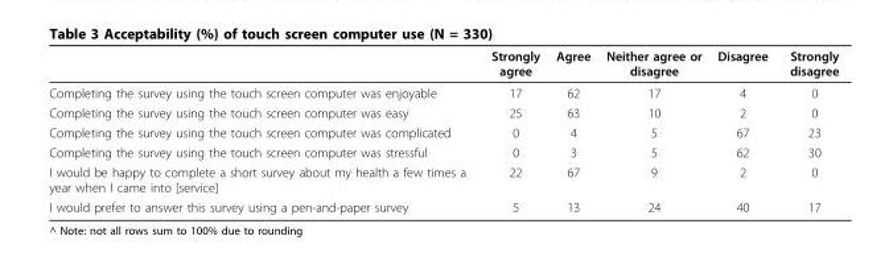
<table><thead><tr><td></td><td>Strongly agree</td><td>Agree</td><td>Neither agree or disagree</td><td>Disagree</td><td>Strongly disagree</td></tr></thead><tbody><tr><td>Completing the survey using the touch screen computer was enjoyable</td><td>17</td><td>62</td><td>17</td><td>4</td><td>0</td></tr><tr><td>Completing the survey using the touch screen computer was easy</td><td>25</td><td>63</td><td>10</td><td>2</td><td>0</td></tr><tr><td>Completing the survey using the touch screen computer was complicated</td><td>0</td><td>4</td><td>5</td><td>67</td><td>23</td></tr><tr><td>Completing the survey using the touch screen computer was stressful</td><td>0</td><td>3</td><td>5</td><td>62</td><td>30</td></tr><tr><td>I would be happy to complete a short survey about my health a few times a year when I came into [service]</td><td>22</td><td>67</td><td>9</td><td>2</td><td>0</td></tr><tr><td>I would prefer to answer this survey using a pen-and-paper survey</td><td>5</td><td>13</td><td>24</td><td>40</td><td>17</td></tr></tbody></table>